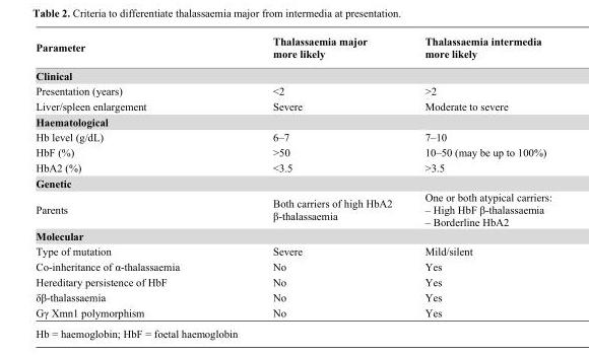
<table><thead><tr><td>Parameter</td><td>Thalassaemia major more likely</td><td>Thalassaemia intermedia more likely</td></tr></thead><tbody><tr><td colspan="3">Clinical</td></tr><tr><td>Presentation (years)</td><td>&lt;2</td><td>&gt;2</td></tr><tr><td>Liver/spleen enlargement</td><td>Severe</td><td>Moderate to severe</td></tr><tr><td colspan="3">Haematological</td></tr><tr><td>Hb level (g/dL)</td><td>6–7</td><td>7–10</td></tr><tr><td>HbF (%)</td><td>&gt;50</td><td>10–50 (may be up to 100%)</td></tr><tr><td>HbA2 (%)</td><td>&lt;3.5</td><td>&gt;3.5</td></tr><tr><td colspan="3">Genetic</td></tr><tr><td>Parents</td><td>Both carriers of high HbA2 β-thalassaemia</td><td>One or both atypical carriers: – High HbF β-thalassaemia – Borderline HbA2</td></tr><tr><td colspan="3">Molecular</td></tr><tr><td>Type of mutation</td><td>Severe</td><td>Mild/silent</td></tr><tr><td>Co-inheritance of α-thalassaemia</td><td>No</td><td>Yes</td></tr><tr><td>Hereditary persistence of HbF</td><td>No</td><td>Yes</td></tr><tr><td>δβ-thalassaemia</td><td>No</td><td>Yes</td></tr><tr><td>Gγ Xmn1 polymorphism</td><td>No</td><td>Yes</td></tr></tbody></table>